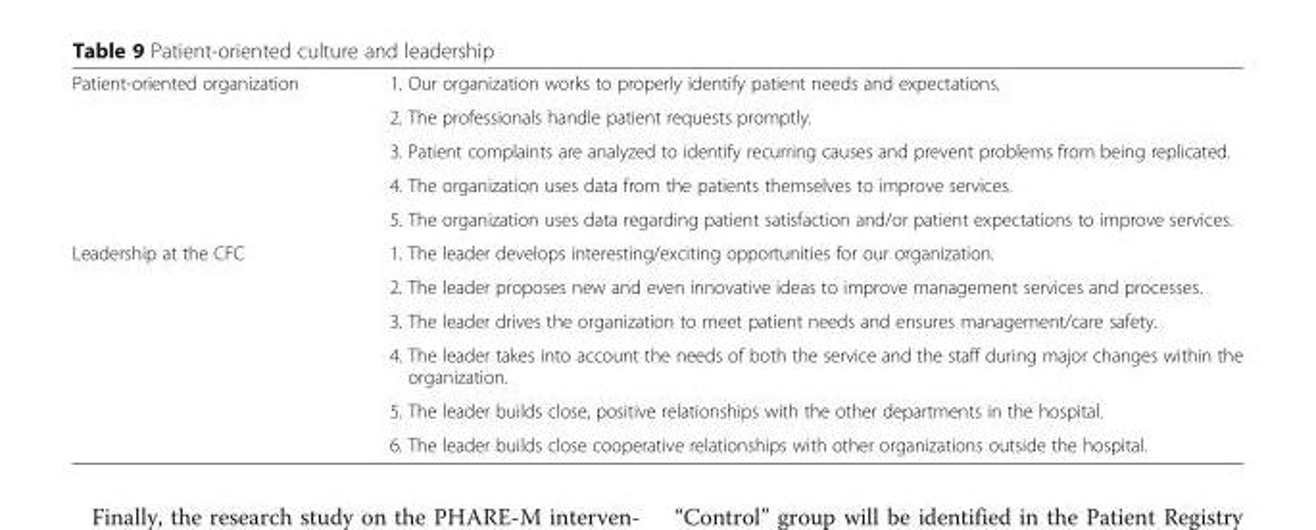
<table><tbody><tr><td rowspan="5">Patient-oriented organization</td><td>1. Our organization works to properly identify patient needs and expectations.</td></tr><tr><td>2. The professionals handle patient requests promptly.</td></tr><tr><td>3. Patient complaints are analyzed to identify recurring causes and prevent problems from being replicated.</td></tr><tr><td>4. The organization uses data from the patients themselves to improve services.</td></tr><tr><td>5. The organization uses data regarding patient satisfaction and/or patient expectations to improve services.</td></tr><tr><td rowspan="6">Leadership at the CFC</td><td>1. The leader develops interesting/exciting opportunities for our organization.</td></tr><tr><td>2. The leader proposes new and even innovative ideas to improve management services and processes.</td></tr><tr><td>3. The leader drives the organization to meet patient needs and ensures management/care safety.</td></tr><tr><td>4. The leader takes into account the needs of both the service and the staff during major changes within the organization.</td></tr><tr><td>5. The leader builds close, positive relationships with the other departments in the hospital.</td></tr><tr><td>6. The leader builds close cooperative relationships with other organizations outside the hospital.</td></tr></tbody></table>